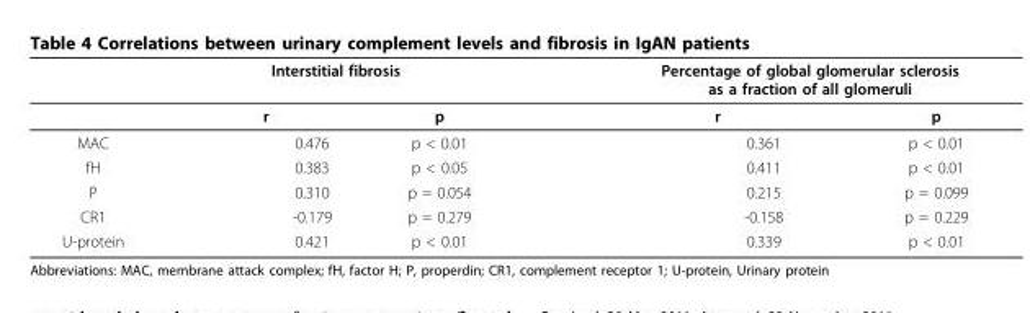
<table><thead><tr><td rowspan="2"></td><td colspan="2">Interstitial fibrosis</td><td colspan="2">Percentage of global glomerular sclerosis as a fraction of all glomeruli</td></tr><tr><td>r</td><td>p</td><td>r</td><td>p</td></tr></thead><tbody><tr><td>MAC</td><td>0.476</td><td>p &lt; 0.01</td><td>0.361</td><td>p &lt; 0.01</td></tr><tr><td>fH</td><td>0.383</td><td>p &lt; 0.05</td><td>0.411</td><td>p &lt; 0.01</td></tr><tr><td>P</td><td>0.310</td><td>p = 0.054</td><td>0.215</td><td>p = 0.099</td></tr><tr><td>CR1</td><td>-0.179</td><td>p = 0.279</td><td>-0.158</td><td>p = 0.229</td></tr><tr><td>U-protein</td><td>0.421</td><td>p &lt; 0.01</td><td>0.339</td><td>p &lt; 0.01</td></tr></tbody></table>